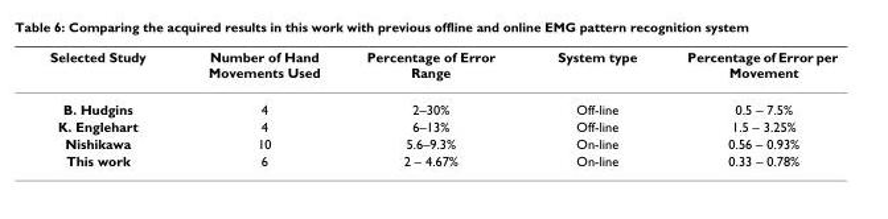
<table><thead><tr><td>Selected Study</td><td>Number of Hand Movements Used</td><td>Percentage of Error Range</td><td>System type</td><td>Percentage of Error per Movement</td></tr></thead><tbody><tr><td>B. Hudgins</td><td>4</td><td>2–30%</td><td>Off-line</td><td>0.5 – 7.5%</td></tr><tr><td>K. Englehart</td><td>4</td><td>6–13%</td><td>Off-line</td><td>1.5 – 3.25%</td></tr><tr><td>Nishikawa</td><td>10</td><td>5.6–9.3%</td><td>On-line</td><td>0.56 – 0.93%</td></tr><tr><td>This work</td><td>6</td><td>2 – 4.67%</td><td>On-line</td><td>0.33 – 0.78%</td></tr></tbody></table>